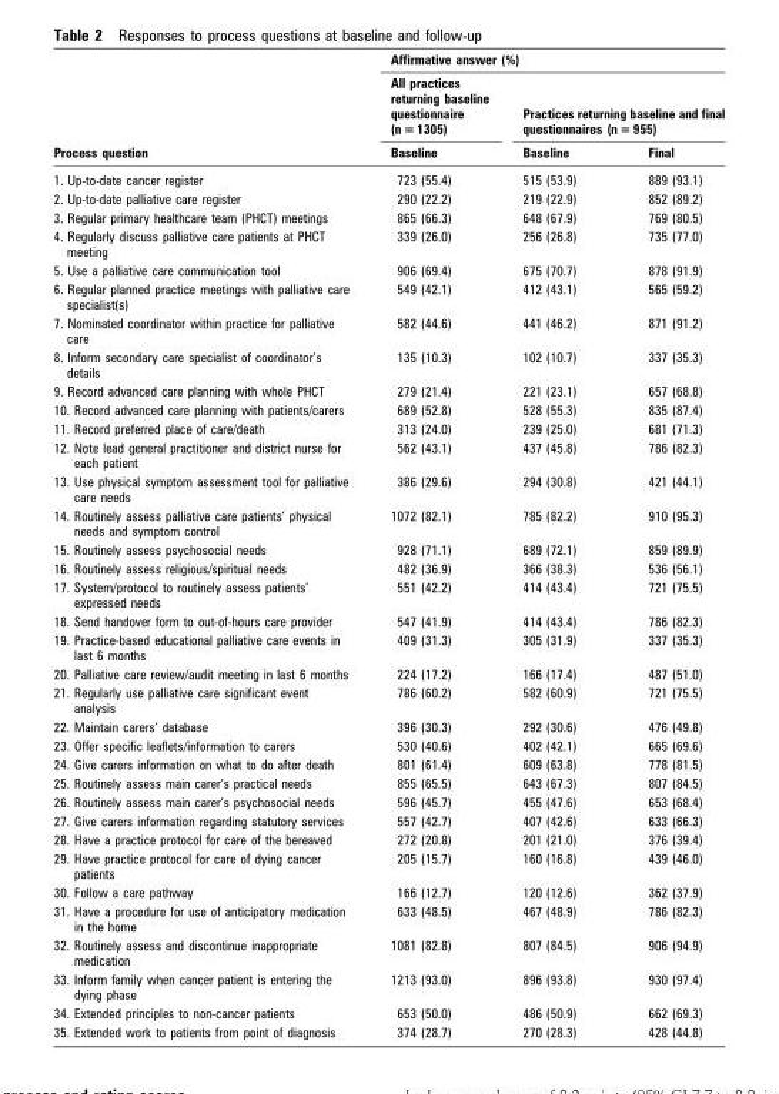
<table><thead><tr><td rowspan="3">Process question</td><td colspan="3">Affirmative answer (%)</td></tr><tr><td rowspan="2">All practices returning baseline questionnaire (n = 1305) Baseline</td><td colspan="2">Practices returning baseline and final questionnaires (n = 955)</td></tr><tr><td>Baseline</td><td>Final</td></tr></thead><tbody><tr><td>1. Up-to-date cancer register</td><td>723 (55.4)</td><td>515 (53.9)</td><td>889 (93.1)</td></tr><tr><td>2. Up-to-date palliative care register</td><td>290 (22.2)</td><td>219 (22.9)</td><td>852 (89.2)</td></tr><tr><td>3. Regular primary healthcare team (PHCT) meetings</td><td>865 (66.3)</td><td>648 (67.9)</td><td>769 (80.5)</td></tr><tr><td>4. Regularly discuss palliative care patients at PHCT meeting</td><td>339 (26.0)</td><td>256 (26.8)</td><td>735 (77.0)</td></tr><tr><td>5. Use a palliative care communication tool</td><td>906 (69.4)</td><td>675 (70.7)</td><td>878 (91.9)</td></tr><tr><td>6. Regular planned practice meetings with palliative care specialist(s)</td><td>549 (42.1)</td><td>412 (43.1)</td><td>565 (59.2)</td></tr><tr><td>7. Nominated coordinator within practice for palliative care</td><td>582 (44.6)</td><td>441 (46.2)</td><td>871 (91.2)</td></tr><tr><td>8. Inform secondary care specialist of coordinator’s details</td><td>135 (10.3)</td><td>102 (10.7)</td><td>337 (35.3)</td></tr><tr><td>9. Record advanced care planning with whole PHCT</td><td>279 (21.4)</td><td>221 (23.1)</td><td>657 (68.8)</td></tr><tr><td>10. Record advanced care planning with patients/carers</td><td>689 (52.8)</td><td>528 (55.3)</td><td>835 (87.4)</td></tr><tr><td>11. Record preferred place of care/death</td><td>313 (24.0)</td><td>239 (25.0)</td><td>681 (71.3)</td></tr><tr><td>12. Note lead general practitioner and district nurse for each patient</td><td>562 (43.1)</td><td>437 (45.8)</td><td>786 (82.3)</td></tr><tr><td>13. Use physical symptom assessment tool for palliative care needs</td><td>386 (29.6)</td><td>294 (30.8)</td><td>421 (44.1)</td></tr><tr><td>14. Routinely assess palliative care patients’ physical needs and symptom control</td><td>1072 (82.1)</td><td>785 (82.2)</td><td>910 (95.3)</td></tr><tr><td>15. Routinely assess psychosocial needs</td><td>928 (71.1)</td><td>689 (72.1)</td><td>859 (89.9)</td></tr><tr><td>16. Routinely assess religious/spiritual needs</td><td>482 (36.9)</td><td>366 (38.3)</td><td>536 (56.1)</td></tr><tr><td>17. System/protocol to routinely assess patients’ expressed needs</td><td>551 (42.2)</td><td>414 (43.4)</td><td>721 (75.5)</td></tr><tr><td>18. Send handover form to out-of-hours care provider</td><td>547 (41.9)</td><td>414 (43.4)</td><td>786 (82.3)</td></tr><tr><td>19. Practice-based educational palliative care events in last 6 months</td><td>409 (31.3)</td><td>305 (31.9)</td><td>337 (35.3)</td></tr><tr><td>20. Palliative care review/audit meeting in last 6 months</td><td>224 (17.2)</td><td>166 (17.4)</td><td>487 (51.0)</td></tr><tr><td>21. Regularly use palliative care significant event analysis</td><td>786 (60.2)</td><td>582 (60.9)</td><td>721 (75.5)</td></tr><tr><td>22. Maintain carers’ database</td><td>396 (30.3)</td><td>292 (30.6)</td><td>476 (49.8)</td></tr><tr><td>23. Offer specific leaflets/information to carers</td><td>530 (40.6)</td><td>402 (42.1)</td><td>665 (69.6)</td></tr><tr><td>24. Give carers information on what to do after death</td><td>801 (61.4)</td><td>609 (63.8)</td><td>778 (81.5)</td></tr><tr><td>25. Routinely assess main carer’s practical needs</td><td>855 (65.5)</td><td>643 (67.3)</td><td>807 (84.5)</td></tr><tr><td>26. Routinely assess main carer’s psychosocial needs</td><td>596 (45.7)</td><td>455 (47.6)</td><td>653 (68.4)</td></tr><tr><td>27. Give carers information regarding statutory services</td><td>557 (42.7)</td><td>407 (42.6)</td><td>633 (66.3)</td></tr><tr><td>28. Have a practice protocol for care of the bereaved</td><td>272 (20.8)</td><td>201 (21.0)</td><td>376 (39.4)</td></tr><tr><td>29. Have practice protocol for care of dying cancer patients</td><td>205 (15.7)</td><td>160 (16.8)</td><td>439 (46.0)</td></tr><tr><td>30. Follow a care pathway</td><td>166 (12.7)</td><td>120 (12.6)</td><td>362 (37.9)</td></tr><tr><td>31. Have a procedure for use of anticipatory medication in the home</td><td>633 (48.5)</td><td>467 (48.9)</td><td>786 (82.3)</td></tr><tr><td>32. Routinely assess and discontinue inappropriate medication</td><td>1081 (82.8)</td><td>807 (84.5)</td><td>906 (94.9)</td></tr><tr><td>33. Inform family when cancer patient is entering the dying phase</td><td>1213 (93.0)</td><td>896 (93.8)</td><td>930 (97.4)</td></tr><tr><td>34. Extended principles to non-cancer patients</td><td>653 (50.0)</td><td>486 (50.9)</td><td>662 (69.3)</td></tr><tr><td>35. Extended work to patients from point of diagnosis</td><td>374 (28.7)</td><td>270 (28.3)</td><td>428 (44.8)</td></tr></tbody></table>